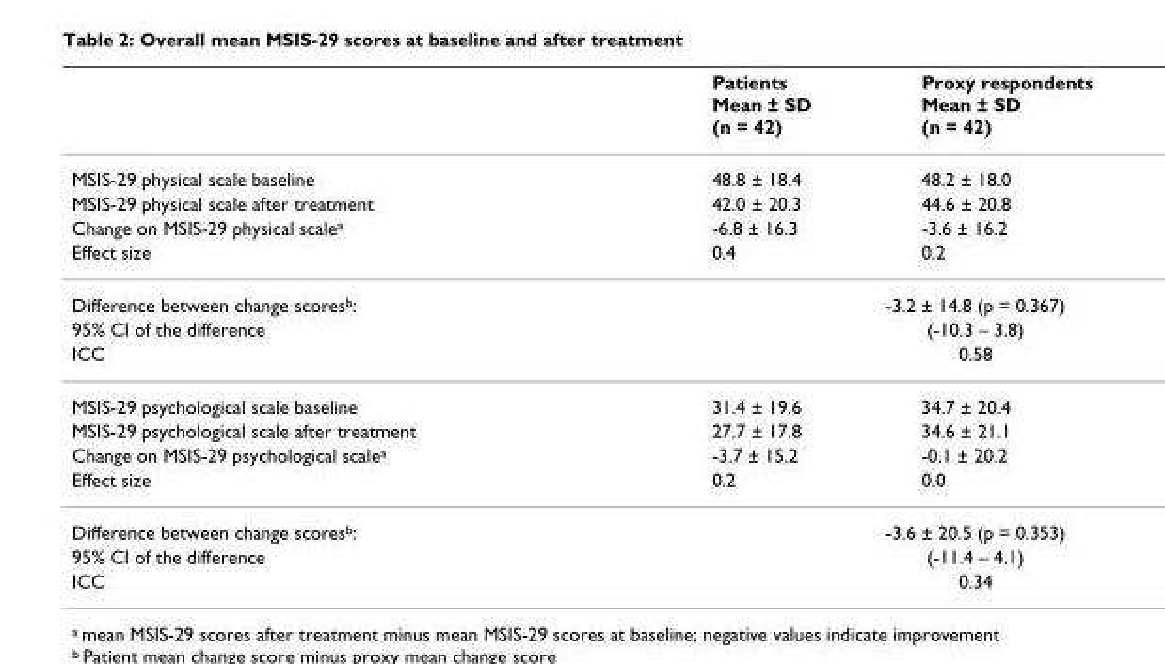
<table><thead><tr><td></td><td>Patients Mean ± SD (n = 42)</td><td>Proxy respondents Mean ± SD (n = 42)</td></tr></thead><tbody><tr><td>MSIS-29 physical scale baseline</td><td>48.8 ± 18.4</td><td>48.2 ± 18.0</td></tr><tr><td>MSIS-29 physical scale after treatment</td><td>42.0 ± 20.3</td><td>44.6 ± 20.8</td></tr><tr><td>Change on MSIS-29 physical scale<sup>a</sup></td><td>-6.8 ± 16.3</td><td>-3.6 ± 16.2</td></tr><tr><td>Effect size</td><td>0.4</td><td>0.2</td></tr><tr><td>Difference between change scores<sup>b</sup>:</td><td colspan="2">-3.2 ± 14.8 (p = 0.367)</td></tr><tr><td>95% CI of the difference</td><td colspan="2">(-10.3 – 3.8)</td></tr><tr><td>ICC</td><td colspan="2">0.58</td></tr><tr><td>MSIS-29 psychological scale baseline</td><td>31.4 ± 19.6</td><td>34.7 ± 20.4</td></tr><tr><td>MSIS-29 psychological scale after treatment</td><td>27.7 ± 17.8</td><td>34.6 ± 21.1</td></tr><tr><td>Change on MSIS-29 psychological scale<sup>a</sup></td><td>-3.7 ± 15.2</td><td>-0.1 ± 20.2</td></tr><tr><td>Effect size</td><td>0.2</td><td>0.0</td></tr><tr><td>Difference between change scores<sup>b</sup>:</td><td colspan="2">-3.6 ± 20.5 (p = 0.353)</td></tr><tr><td>95% CI of the difference</td><td colspan="2">(-11.4 – 4.1)</td></tr><tr><td>ICC</td><td colspan="2">0.34</td></tr></tbody></table>